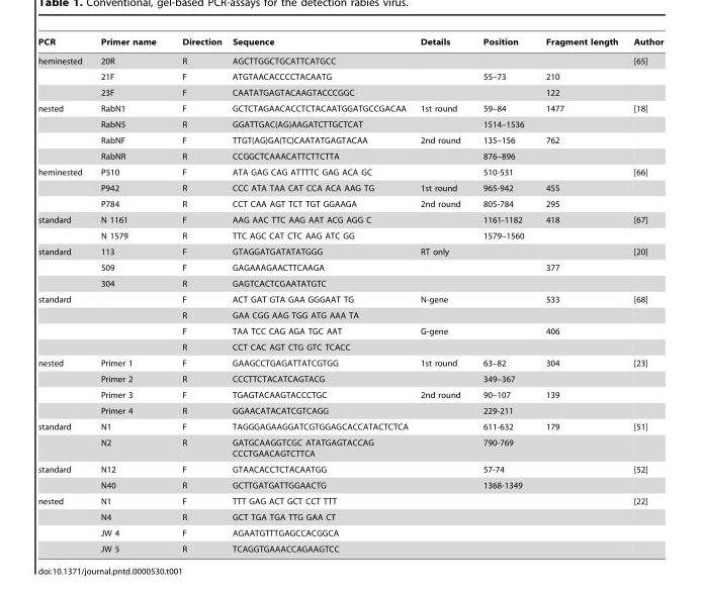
<table><thead><tr><td>PCR</td><td>Primer name</td><td>Direction</td><td>Sequence</td><td>Details</td><td>Position</td><td>Fragment length</td><td>Author</td></tr></thead><tbody><tr><td rowspan="3">heminested</td><td>20R</td><td>R</td><td>AGCTTGGCTGCATTCATGCC</td><td></td><td></td><td></td><td>[65]</td></tr><tr><td>21F</td><td>F</td><td>ATGTAACACCCCTACAATG</td><td></td><td>55–73</td><td>210</td><td></td></tr><tr><td>23F</td><td>F</td><td>CAATATGAGTACAAGTACCCGGC</td><td></td><td></td><td>122</td><td></td></tr><tr><td rowspan="4">nested</td><td>RabN1</td><td>F</td><td>GCTCTAGAACACCTCTACAATGGATGCCGACAA</td><td>1st round</td><td>59–84</td><td>1477</td><td>[18]</td></tr><tr><td>RabN5</td><td>R</td><td>GGATTGAC(AG)AAGATCTTGCTCAT</td><td></td><td>1514–1536</td><td></td><td></td></tr><tr><td>RabNF</td><td>F</td><td>TTGT(AG)GA(TC)CAATATGAGTACAA</td><td>2nd round</td><td>135–156</td><td>762</td><td></td></tr><tr><td>RabNR</td><td>R</td><td>CCGGCTCAAACATTCTTCTTA</td><td></td><td>876–896</td><td></td><td></td></tr><tr><td rowspan="3">heminested</td><td>P510</td><td>F</td><td>ATA GAG CAG ATTTTC GAG ACA GC</td><td></td><td>510-531</td><td></td><td>[66]</td></tr><tr><td>P942</td><td>R</td><td>CCC ATA TAA CAT CCA ACA AAG TG</td><td>1st round</td><td>965-942</td><td>455</td><td></td></tr><tr><td>P784</td><td>R</td><td>CCT CAA AGT TCT TGT GGAAGA</td><td>2nd round</td><td>805-784</td><td>295</td><td></td></tr><tr><td rowspan="2">standard</td><td>N 1161</td><td>F</td><td>AAG AAC TTC AAG AAT ACG AGG C</td><td></td><td>1161-1182</td><td>418</td><td>[67]</td></tr><tr><td>N 1579</td><td>R</td><td>TTC AGC CAT CTC AAG ATC GG</td><td></td><td>1579–1560</td><td></td><td></td></tr><tr><td rowspan="3">standard</td><td>113</td><td>F</td><td>GTAGGATGATATATGGG</td><td>RT only</td><td></td><td></td><td>[20]</td></tr><tr><td>509</td><td>F</td><td>GAGAAAGAACTTCAAGA</td><td></td><td></td><td>377</td><td></td></tr><tr><td>304</td><td>R</td><td>GAGTCACTCGAATATGTC</td><td></td><td></td><td></td><td></td></tr><tr><td rowspan="4">standard</td><td></td><td>F</td><td>ACT GAT GTA GAA GGGAAT TG</td><td>N-gene</td><td></td><td>533</td><td>[68]</td></tr><tr><td></td><td>R</td><td>GAA CGG AAG TGG ATG AAA TA</td><td></td><td></td><td></td><td></td></tr><tr><td></td><td>F</td><td>TAA TCC CAG AGA TGC AAT</td><td>G-gene</td><td></td><td>406</td><td></td></tr><tr><td></td><td>R</td><td>CCT CAC AGT CTG GTC TCACC</td><td></td><td></td><td></td><td></td></tr><tr><td rowspan="4">nested</td><td>Primer 1</td><td>F</td><td>GAAGCCTGAGATTATCGTGG</td><td>1st round</td><td>63–82</td><td>304</td><td>[23]</td></tr><tr><td>Primer 2</td><td>R</td><td>CCCTTCTACATCAGTACG</td><td></td><td>349–367</td><td></td><td></td></tr><tr><td>Primer 3</td><td>F</td><td>TGAGTACAAGTACCCTGC</td><td>2nd round</td><td>90–107</td><td>139</td><td></td></tr><tr><td>Primer 4</td><td>R</td><td>GGAACATACATCGTCAGG</td><td></td><td>229-211</td><td></td><td></td></tr><tr><td rowspan="2">standard</td><td>N1</td><td>F</td><td>TAGGGAGAAGGATCGTGGAGCACCATACTCTCA</td><td></td><td>611-632</td><td>179</td><td>[51]</td></tr><tr><td>N2</td><td>R</td><td>GATGCAAGGTCGC ATATGAGTACCAG CCCTGAACAGTCTTCA</td><td></td><td>790-769</td><td></td><td></td></tr><tr><td rowspan="2">standard</td><td>N12</td><td>F</td><td>GTAACACCTCTACAATGG</td><td></td><td>57-74</td><td></td><td>[52]</td></tr><tr><td>N40</td><td>R</td><td>GCTTGATGATTGGAACTG</td><td></td><td>1368-1349</td><td></td><td></td></tr><tr><td rowspan="4">nested</td><td>N1</td><td>F</td><td>TTT GAG ACT GCT CCT TTT</td><td></td><td></td><td></td><td>[22]</td></tr><tr><td>N4</td><td>R</td><td>GCT TGA TGA TTG GAA CT</td><td></td><td></td><td></td><td></td></tr><tr><td>JW 4</td><td>F</td><td>AGAATGTTTGAGCCACGGCA</td><td></td><td></td><td></td><td></td></tr><tr><td>JW 5</td><td>R</td><td>TCAGGTGAAACCAGAAGTCC</td><td></td><td></td><td></td><td></td></tr></tbody></table>